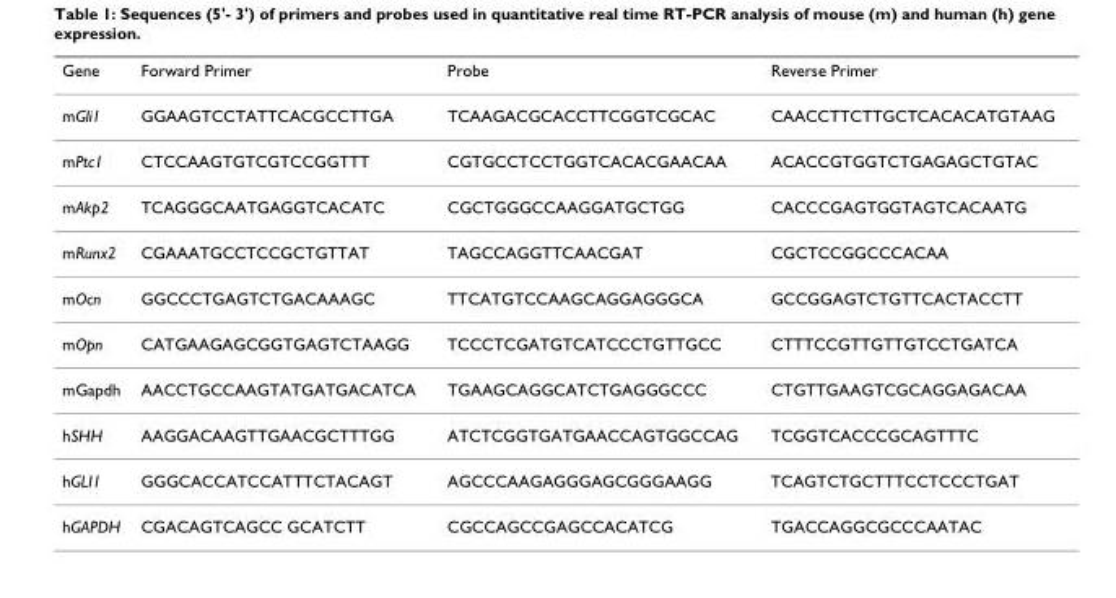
<table><thead><tr><td>Gene</td><td>Forward Primer</td><td>Probe</td><td>Reverse Primer</td></tr></thead><tbody><tr><td>mGli1</td><td>GGAAGTCCTATTCACGCCTTGA</td><td>TCAAGACGCACCTTCGGTCGCAC</td><td>CAACCTTCTTGCTCACACATGTAAG</td></tr><tr><td>mPtc1</td><td>CTCCAAGTGTCGTCCGGTTT</td><td>CGTGCCTCCTGGTCACACGAACAA</td><td>ACACCGTGGTCTGAGAGCTGTAC</td></tr><tr><td>mAkp2</td><td>TCAGGGCAATGAGGTCACATC</td><td>CGCTGGGCCAAGGATGCTGG</td><td>CACCCGAGTGGTAGTCACAATG</td></tr><tr><td>mRunx2</td><td>CGAAATGCCTCCGCTGTTAT</td><td>TAGCCAGGTTCAACGAT</td><td>CGCTCCGGCCCACAA</td></tr><tr><td>mOcn</td><td>GGCCCTGAGTCTGACAAAGC</td><td>TTCATGTCCAAGCAGGAGGGCA</td><td>GCCGGAGTCTGTTCACTACCTT</td></tr><tr><td>mOpn</td><td>CATGAAGAGCGGTGAGTCTAAGG</td><td>TCCCTCGATGTCATCCCTGTTGCC</td><td>CTTTCCGTTGTTGTCCTGATCA</td></tr><tr><td>mGapdh</td><td>AACCTGCCAAGTATGATGACATCA</td><td>TGAAGCAGGCATCTGAGGGCCC</td><td>CTGTTGAAGTCGCAGGAGACAA</td></tr><tr><td>hSHH</td><td>AAGGACAAGTTGAACGCTTTGG</td><td>ATCTCGGTGATGAACCAGTGGCCAG</td><td>TCGGTCACCCGCAGTTTC</td></tr><tr><td>hGLI1</td><td>GGGCACCATCCATTTCTACAGT</td><td>AGCCCAAGAGGGAGCGGGAAGG</td><td>TCAGTCTGCTTTCCTCCCTGAT</td></tr><tr><td>hGAPDH</td><td>CGACAGTCAGCC GCATCTT</td><td>CGCCAGCCGAGCCACATCG</td><td>TGACCAGGCGCCCAATAC</td></tr></tbody></table>